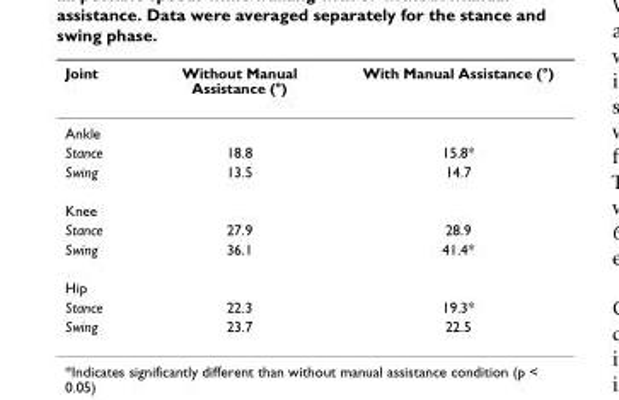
<table><thead><tr><td>Joint</td><td>Without Manual Assistance (°)</td><td>With Manual Assistance (°)</td></tr></thead><tbody><tr><td colspan="3">Ankle</td></tr><tr><td>Stance</td><td>18.8</td><td>15.8*</td></tr><tr><td>Swing</td><td>13.5</td><td>14.7</td></tr><tr><td colspan="3">Knee</td></tr><tr><td>Stance</td><td>27.9</td><td>28.9</td></tr><tr><td>Swing</td><td>36.1</td><td>41.4*</td></tr><tr><td colspan="3">Hip</td></tr><tr><td>Stance</td><td>22.3</td><td>19.3*</td></tr><tr><td>Swing</td><td>23.7</td><td>22.5</td></tr></tbody></table>